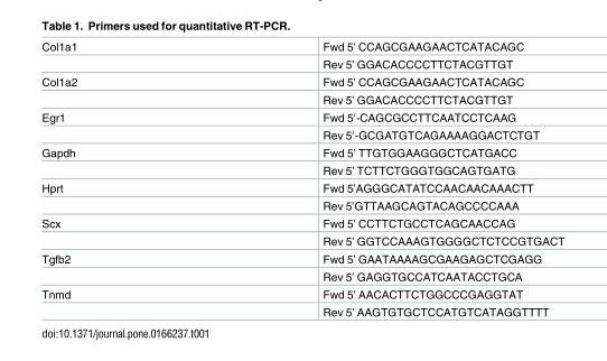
<table><tbody><tr><td rowspan="2">Col1a1</td><td>Fwd 5’ CCAGCGAAGAACTCATACAGC</td></tr><tr><td>Rev 5’ GGACACCCCTTCTACGTTGT</td></tr><tr><td rowspan="2">Col1a2</td><td>Fwd 5’ CCAGCGAAGAACTCATACAGC</td></tr><tr><td>Rev 5’ GGACACCCCTTCTACGTTGT</td></tr><tr><td rowspan="2">Egr1</td><td>Fwd 5′-CAGCGCCTTCAATCCTCAAG</td></tr><tr><td>Rev 5′-GCGATGTCAGAAAAGGACTCTGT</td></tr><tr><td rowspan="2">Gapdh</td><td>Fwd 5’ TTGTGGAAGGGCTCATGACC</td></tr><tr><td>Rev 5’ TCTTCTGGGTGGCAGTGATG</td></tr><tr><td rowspan="2">Hprt</td><td>Fwd 5’AGGGCATATCCAACAACAAACTT</td></tr><tr><td>Rev 5’GTTAAGCAGTACAGCCCCAAA</td></tr><tr><td rowspan="2">Scx</td><td>Fwd 5’ CCTTCTGCCTCAGCAACCAG</td></tr><tr><td>Rev 5’ GGTCCAAAGTGGGGCTCTCCGTGACT</td></tr><tr><td rowspan="2">Tgfb2</td><td>Fwd 5’ GAATAAAAGCGAAGAGCTCGAGG</td></tr><tr><td>Rev 5’ GAGGTGCCATCAATACCTGCA</td></tr><tr><td rowspan="2">Tnmd</td><td>Fwd 5’ AACACTTCTGGCCCGAGGTAT</td></tr><tr><td>Rev 5’ AAGTGTGCTCCATGTCATAGGTTTT</td></tr></tbody></table>